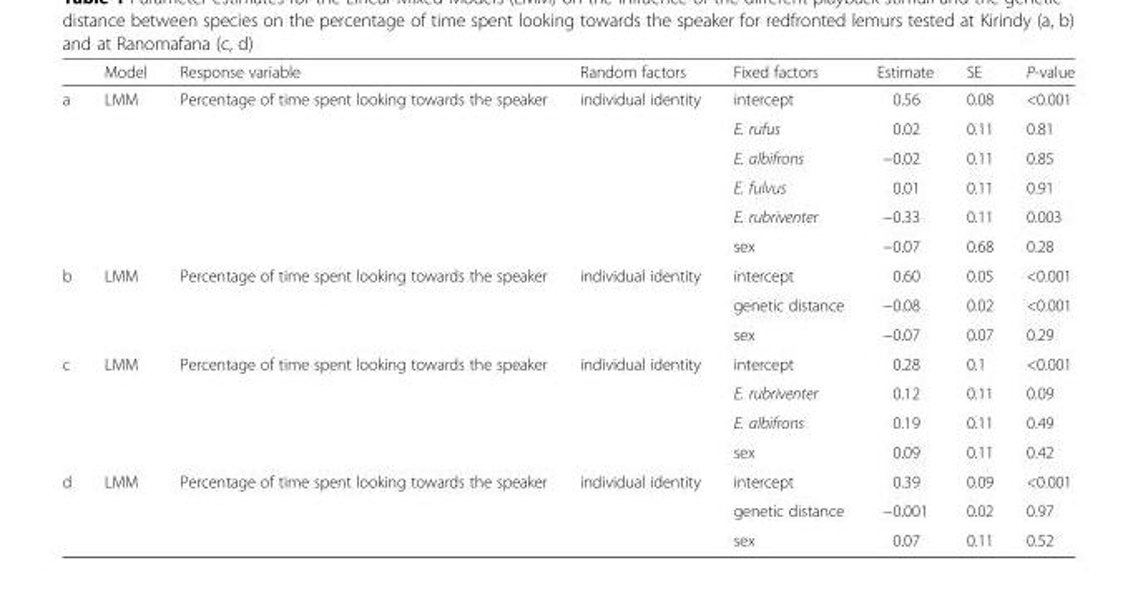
<table><thead><tr><td></td><td>Model</td><td>Response variable</td><td>Random factors</td><td>Fixed factors</td><td>Estimate</td><td>SE</td><td>P-value</td></tr></thead><tbody><tr><td rowspan="6">a</td><td rowspan="6">LMM</td><td rowspan="6">Percentage of time spent looking towards the speaker</td><td rowspan="6">individual identity</td><td>intercept</td><td>0.56</td><td>0.08</td><td>&lt;0.001</td></tr><tr><td>E. rufus</td><td>0.02</td><td>0.11</td><td>0.81</td></tr><tr><td>E. albifrons</td><td>−0.02</td><td>0.11</td><td>0.85</td></tr><tr><td>E. fulvus</td><td>0.01</td><td>0.11</td><td>0.91</td></tr><tr><td>E. rubriventer</td><td>−0.33</td><td>0.11</td><td>0.003</td></tr><tr><td>sex</td><td>−0.07</td><td>0.68</td><td>0.28</td></tr><tr><td rowspan="3">b</td><td rowspan="3">LMM</td><td rowspan="3">Percentage of time spent looking towards the speaker</td><td rowspan="3">individual identity</td><td>intercept</td><td>0.60</td><td>0.05</td><td>&lt;0.001</td></tr><tr><td>genetic distance</td><td>−0.08</td><td>0.02</td><td>&lt;0.001</td></tr><tr><td>sex</td><td>−0.07</td><td>0.07</td><td>0.29</td></tr><tr><td rowspan="4">c</td><td rowspan="4">LMM</td><td rowspan="4">Percentage of time spent looking towards the speaker</td><td rowspan="4">individual identity</td><td>intercept</td><td>0.28</td><td>0.1</td><td>&lt;0.001</td></tr><tr><td>E. rubriventer</td><td>0.12</td><td>0.11</td><td>0.09</td></tr><tr><td>E. albifrons</td><td>0.19</td><td>0.11</td><td>0.49</td></tr><tr><td>sex</td><td>0.09</td><td>0.11</td><td>0.42</td></tr><tr><td rowspan="3">d</td><td rowspan="3">LMM</td><td rowspan="3">Percentage of time spent looking towards the speaker</td><td rowspan="3">individual identity</td><td>intercept</td><td>0.39</td><td>0.09</td><td>&lt;0.001</td></tr><tr><td>genetic distance</td><td>−0.001</td><td>0.02</td><td>0.97</td></tr><tr><td>sex</td><td>0.07</td><td>0.11</td><td>0.52</td></tr></tbody></table>